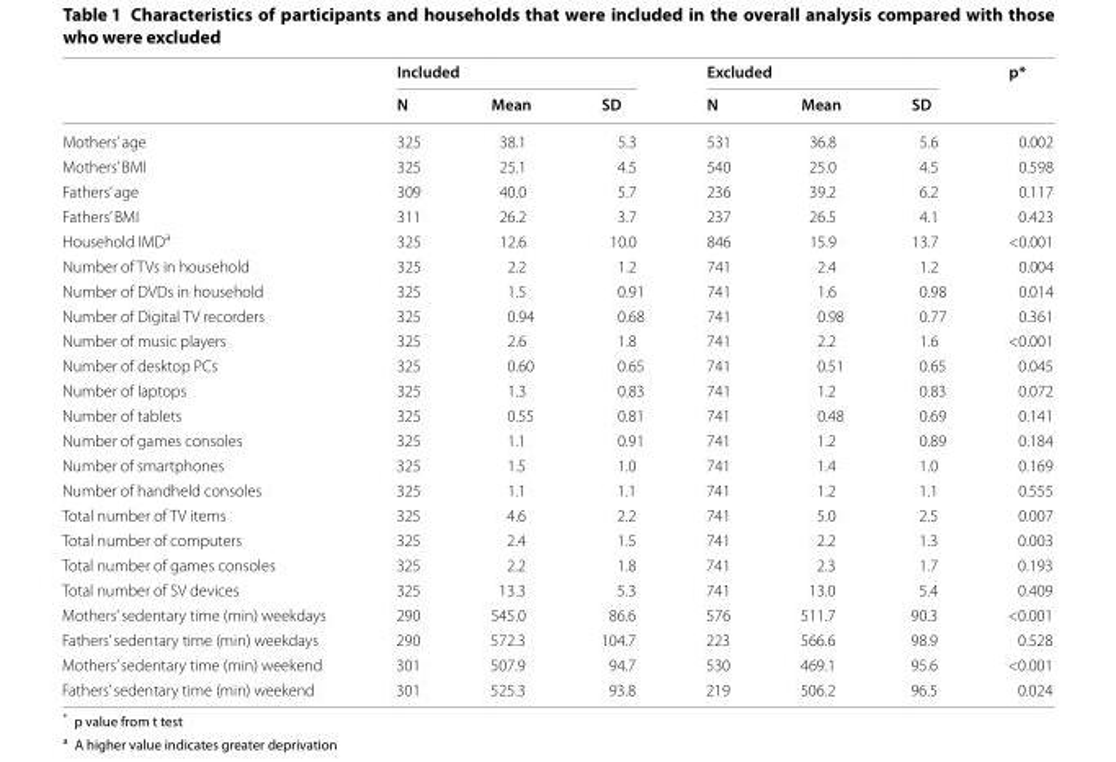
<table><thead><tr><td rowspan="2"></td><td colspan="3">Included</td><td colspan="3">Excluded</td><td rowspan="2">p*</td></tr><tr><td>N</td><td>Mean</td><td>SD</td><td>N</td><td>Mean</td><td>SD</td></tr></thead><tbody><tr><td>Mothers’ age</td><td>325</td><td>38.1</td><td>5.3</td><td>531</td><td>36.8</td><td>5.6</td><td>0.002</td></tr><tr><td>Mothers’ BMI</td><td>325</td><td>25.1</td><td>4.5</td><td>540</td><td>25.0</td><td>4.5</td><td>0.598</td></tr><tr><td>Fathers’ age</td><td>309</td><td>40.0</td><td>5.7</td><td>236</td><td>39.2</td><td>6.2</td><td>0.117</td></tr><tr><td>Fathers’ BMI</td><td>311</td><td>26.2</td><td>3.7</td><td>237</td><td>26.5</td><td>4.1</td><td>0.423</td></tr><tr><td>Household IMD<sup>a</sup></td><td>325</td><td>12.6</td><td>10.0</td><td>846</td><td>15.9</td><td>13.7</td><td>&lt;0.001</td></tr><tr><td>Number of TVs in household</td><td>325</td><td>2.2</td><td>1.2</td><td>741</td><td>2.4</td><td>1.2</td><td>0.004</td></tr><tr><td>Number of DVDs in household</td><td>325</td><td>1.5</td><td>0.91</td><td>741</td><td>1.6</td><td>0.98</td><td>0.014</td></tr><tr><td>Number of Digital TV recorders</td><td>325</td><td>0.94</td><td>0.68</td><td>741</td><td>0.98</td><td>0.77</td><td>0.361</td></tr><tr><td>Number of music players</td><td>325</td><td>2.6</td><td>1.8</td><td>741</td><td>2.2</td><td>1.6</td><td>&lt;0.001</td></tr><tr><td>Number of desktop PCs</td><td>325</td><td>0.60</td><td>0.65</td><td>741</td><td>0.51</td><td>0.65</td><td>0.045</td></tr><tr><td>Number of laptops</td><td>325</td><td>1.3</td><td>0.83</td><td>741</td><td>1.2</td><td>0.83</td><td>0.072</td></tr><tr><td>Number of tablets</td><td>325</td><td>0.55</td><td>0.81</td><td>741</td><td>0.48</td><td>0.69</td><td>0.141</td></tr><tr><td>Number of games consoles</td><td>325</td><td>1.1</td><td>0.91</td><td>741</td><td>1.2</td><td>0.89</td><td>0.184</td></tr><tr><td>Number of smartphones</td><td>325</td><td>1.5</td><td>1.0</td><td>741</td><td>1.4</td><td>1.0</td><td>0.169</td></tr><tr><td>Number of handheld consoles</td><td>325</td><td>1.1</td><td>1.1</td><td>741</td><td>1.2</td><td>1.1</td><td>0.555</td></tr><tr><td>Total number of TV items</td><td>325</td><td>4.6</td><td>2.2</td><td>741</td><td>5.0</td><td>2.5</td><td>0.007</td></tr><tr><td>Total number of computers</td><td>325</td><td>2.4</td><td>1.5</td><td>741</td><td>2.2</td><td>1.3</td><td>0.003</td></tr><tr><td>Total number of games consoles</td><td>325</td><td>2.2</td><td>1.8</td><td>741</td><td>2.3</td><td>1.7</td><td>0.193</td></tr><tr><td>Total number of SV devices</td><td>325</td><td>13.3</td><td>5.3</td><td>741</td><td>13.0</td><td>5.4</td><td>0.409</td></tr><tr><td>Mothers’ sedentary time (min) weekdays</td><td>290</td><td>545.0</td><td>86.6</td><td>576</td><td>511.7</td><td>90.3</td><td>&lt;0.001</td></tr><tr><td>Fathers’ sedentary time (min) weekdays</td><td>290</td><td>572.3</td><td>104.7</td><td>223</td><td>566.6</td><td>98.9</td><td>0.528</td></tr><tr><td>Mothers’ sedentary time (min) weekend</td><td>301</td><td>507.9</td><td>94.7</td><td>530</td><td>469.1</td><td>95.6</td><td>&lt;0.001</td></tr><tr><td>Fathers’ sedentary time (min) weekend</td><td>301</td><td>525.3</td><td>93.8</td><td>219</td><td>506.2</td><td>96.5</td><td>0.024</td></tr></tbody></table>